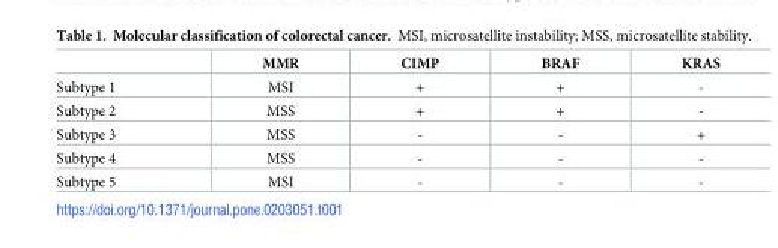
<table><thead><tr><td></td><td>MMR</td><td>CIMP</td><td>BRAF</td><td>KRAS</td></tr></thead><tbody><tr><td>Subtype 1</td><td>MSI</td><td>+</td><td>+</td><td>-</td></tr><tr><td>Subtype 2</td><td>MSS</td><td>+</td><td>+</td><td>-</td></tr><tr><td>Subtype 3</td><td>MSS</td><td>-</td><td>-</td><td>+</td></tr><tr><td>Subtype 4</td><td>MSS</td><td>-</td><td>-</td><td>-</td></tr><tr><td>Subtype 5</td><td>MSI</td><td>-</td><td>-</td><td>-</td></tr></tbody></table>